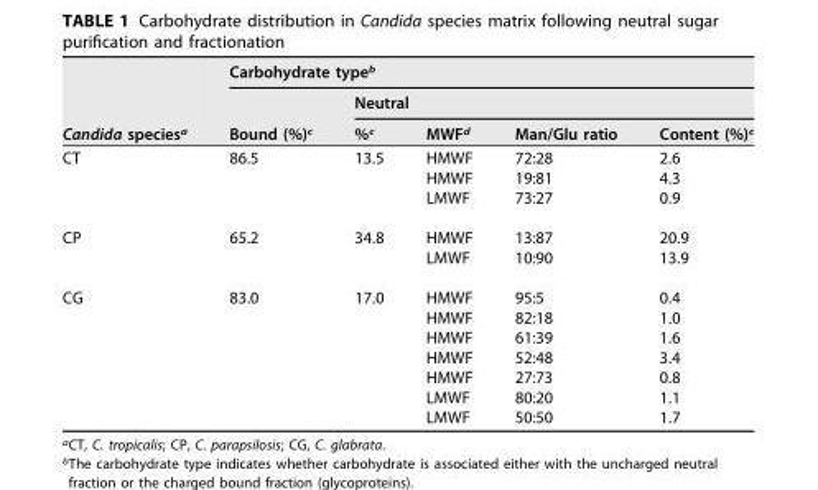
<table><thead><tr><td rowspan="3">Candida species<sup>a</sup></td><td colspan="5">Carbohydrate type<sup>b</sup></td></tr><tr><td rowspan="2">Bound (%)<sup>c</sup></td><td colspan="4">Neutral</td></tr><tr><td>%<sup>c</sup></td><td>MWF<sup>d</sup></td><td>Man/Glu ratio</td><td>Content (%)<sup>c</sup></td></tr></thead><tbody><tr><td rowspan="3">CT</td><td>86.5</td><td>13.5</td><td>HMWF</td><td>72:28</td><td>2.6</td></tr><tr><td></td><td></td><td>HMWF</td><td>19:81</td><td>4.3</td></tr><tr><td></td><td></td><td>LMWF</td><td>73:27</td><td>0.9</td></tr><tr><td rowspan="2">CP</td><td>65.2</td><td>34.8</td><td>HMWF</td><td>13:87</td><td>20.9</td></tr><tr><td></td><td></td><td>LMWF</td><td>10:90</td><td>13.9</td></tr><tr><td rowspan="7">CG</td><td>83.0</td><td>17.0</td><td>HMWF</td><td>95:5</td><td>0.4</td></tr><tr><td></td><td></td><td>HMWF</td><td>82:18</td><td>1.0</td></tr><tr><td></td><td></td><td>HMWF</td><td>61:39</td><td>1.6</td></tr><tr><td></td><td></td><td>HMWF</td><td>52:48</td><td>3.4</td></tr><tr><td></td><td></td><td>HMWF</td><td>27:73</td><td>0.8</td></tr><tr><td></td><td></td><td>LMWF</td><td>80:20</td><td>1.1</td></tr><tr><td></td><td></td><td>LMWF</td><td>50:50</td><td>1.7</td></tr></tbody></table>